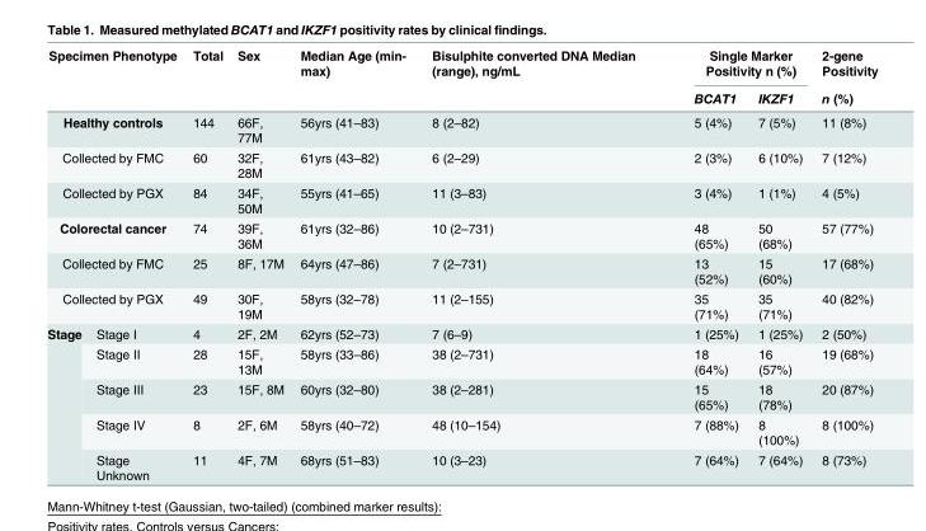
<table><thead><tr><td rowspan="2" colspan="2">Specimen Phenotype</td><td rowspan="2">Total</td><td rowspan="2">Sex</td><td rowspan="2">Median Age (min- max)</td><td rowspan="2">Bisulphite converted DNA Median (range), ng/mL</td><td colspan="2">Single Marker Positivity n (%)</td><td rowspan="2">2-gene Positivity n (%)</td></tr><tr><td>BCAT1</td><td>IKZF1</td></tr></thead><tbody><tr><td colspan="2">Healthy controls</td><td>144</td><td>66F, 77M</td><td>56yrs (41–83)</td><td>8 (2–82)</td><td>5 (4%)</td><td>7 (5%)</td><td>11 (8%)</td></tr><tr><td colspan="2">Collected by FMC</td><td>60</td><td>32F, 28M</td><td>61yrs (43–82)</td><td>6 (2–29)</td><td>2 (3%)</td><td>6 (10%)</td><td>7 (12%)</td></tr><tr><td colspan="2">Collected by PGX</td><td>84</td><td>34F, 50M</td><td>55yrs (41–65)</td><td>11 (3–83)</td><td>3 (4%)</td><td>1 (1%)</td><td>4 (5%)</td></tr><tr><td colspan="2">Colorectal cancer</td><td>74</td><td>39F, 36M</td><td>61yrs (32–86)</td><td>10 (2–731)</td><td>48 (65%)</td><td>50 (68%)</td><td>57 (77%)</td></tr><tr><td colspan="2">Collected by FMC</td><td>25</td><td>8F, 17M</td><td>64yrs (47–86)</td><td>7 (2–731)</td><td>13 (52%)</td><td>15 (60%)</td><td>17 (68%)</td></tr><tr><td colspan="2">Collected by PGX</td><td>49</td><td>30F, 19M</td><td>58yrs (32–78)</td><td>11 (2–155)</td><td>35 (71%)</td><td>35 (71%)</td><td>40 (82%)</td></tr><tr><td rowspan="5">Stage</td><td>Stage I</td><td>4</td><td>2F, 2M</td><td>62yrs (52–73)</td><td>7 (6–9)</td><td>1 (25%)</td><td>1 (25%)</td><td>2 (50%)</td></tr><tr><td>Stage II</td><td>28</td><td>15F, 13M</td><td>58yrs (33–86)</td><td>38 (2–731)</td><td>18 (64%)</td><td>16 (57%)</td><td>19 (68%)</td></tr><tr><td>Stage III</td><td>23</td><td>15F, 8M</td><td>60yrs (32–80)</td><td>38 (2–281)</td><td>15 (65%)</td><td>18 (78%)</td><td>20 (87%)</td></tr><tr><td>Stage IV</td><td>8</td><td>2F, 6M</td><td>58yrs (40–72)</td><td>48 (10–154)</td><td>7 (88%)</td><td>8 (100%)</td><td>8 (100%)</td></tr><tr><td>Stage Unknown</td><td>11</td><td>4F, 7M</td><td>68yrs (51–83)</td><td>10 (3–23)</td><td>7 (64%)</td><td>7 (64%)</td><td>8 (73%)</td></tr></tbody></table>